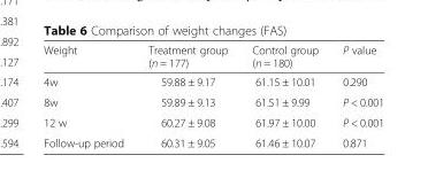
<table><thead><tr><td>Weight</td><td>Treatment group (n = 177)</td><td>Control group (n = 180)</td><td>P value</td></tr></thead><tbody><tr><td>4w</td><td>59.88 ± 9.17</td><td>61.15 ± 10.01</td><td>0.290</td></tr><tr><td>8w</td><td>59.89 ± 9.13</td><td>61.51 ± 9.99</td><td>P &lt; 0.001</td></tr><tr><td>12 w</td><td>60.27 ± 9.08</td><td>61.97 ± 10.00</td><td>P &lt; 0.001</td></tr><tr><td>Follow-up period</td><td>60.31 ± 9.05</td><td>61.46 ± 10.07</td><td>0.871</td></tr></tbody></table>